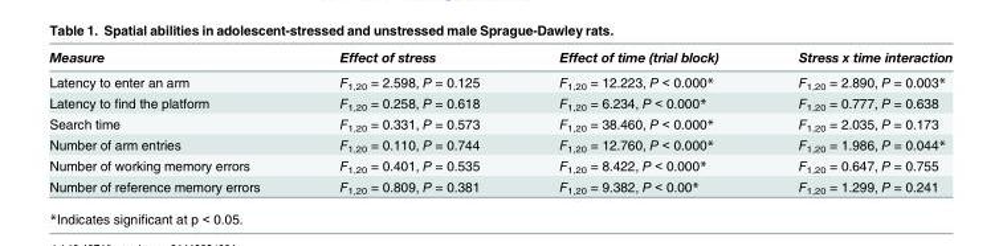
<table><thead><tr><td>Measure</td><td>Effect of stress</td><td>Effect of time (trial block)</td><td>Stress x time interaction</td></tr></thead><tbody><tr><td>Latency to enter an arm</td><td>F<sub>1,20</sub> = 2.598, P = 0.125</td><td>F<sub>1,20</sub> = 12.223, P &lt; 0.000*</td><td>F<sub>1,20</sub> = 2.890, P = 0.003*</td></tr><tr><td>Latency to find the platform</td><td>F<sub>1,20</sub> = 0.258, P = 0.618</td><td>F<sub>1,20</sub> = 6.234, P &lt; 0.000*</td><td>F<sub>1,20</sub> = 0.777, P = 0.638</td></tr><tr><td>Search time</td><td>F<sub>1,20</sub> = 0.331, P = 0.573</td><td>F<sub>1,20</sub> = 38.460, P &lt; 0.000*</td><td>F<sub>1,20</sub> = 2.035, P = 0.173</td></tr><tr><td>Number of arm entries</td><td>F<sub>1,20</sub> = 0.110, P = 0.744</td><td>F<sub>1,20</sub> = 12.760, P &lt; 0.000*</td><td>F<sub>1,20</sub> = 1.986, P = 0.044*</td></tr><tr><td>Number of working memory errors</td><td>F<sub>1,20</sub> = 0.401, P = 0.535</td><td>F<sub>1,20</sub> = 8.422, P &lt; 0.000*</td><td>F<sub>1,20</sub> = 0.647, P = 0.755</td></tr><tr><td>Number of reference memory errors</td><td>F<sub>1,20</sub> = 0.809, P = 0.381</td><td>F<sub>1,20</sub> = 9.382, P &lt; 0.00*</td><td>F<sub>1,20</sub> = 1.299, P = 0.241</td></tr></tbody></table>